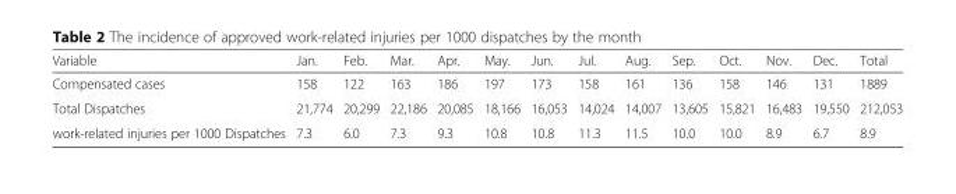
<table><thead><tr><td>Variable</td><td>Jan.</td><td>Feb.</td><td>Mar.</td><td>Apr.</td><td>May.</td><td>Jun.</td><td>Jul.</td><td>Aug.</td><td>Sep.</td><td>Oct.</td><td>Nov.</td><td>Dec.</td><td>Total</td></tr></thead><tbody><tr><td>Compensated cases</td><td>158</td><td>122</td><td>163</td><td>186</td><td>197</td><td>173</td><td>158</td><td>161</td><td>136</td><td>158</td><td>146</td><td>131</td><td>1889</td></tr><tr><td>Total Dispatches</td><td>21,774</td><td>20,299</td><td>22,186</td><td>20,085</td><td>18,166</td><td>16,053</td><td>14,024</td><td>14,007</td><td>13,605</td><td>15,821</td><td>16,483</td><td>19,550</td><td>212,053</td></tr><tr><td>work-related injuries per 1000 Dispatches</td><td>7.3</td><td>6.0</td><td>7.3</td><td>9.3</td><td>10.8</td><td>10.8</td><td>11.3</td><td>11.5</td><td>10.0</td><td>10.0</td><td>8.9</td><td>6.7</td><td>8.9</td></tr></tbody></table>